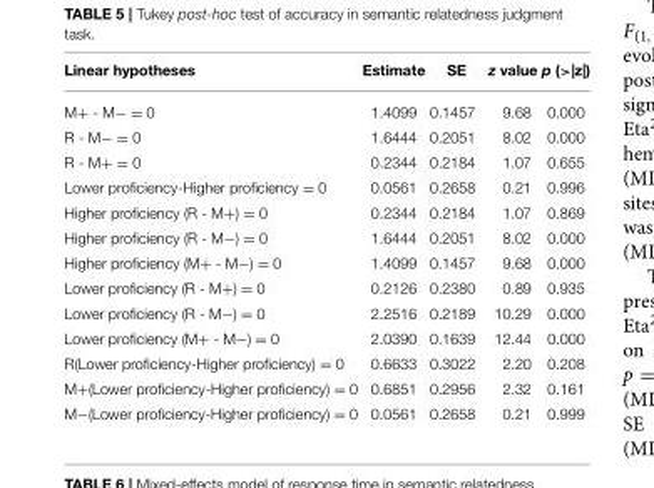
<table><thead><tr><td>Linear hypotheses</td><td>Estimate</td><td>SE</td><td>z value</td><td>p (&gt;|z|)</td></tr></thead><tbody><tr><td>M+ - M− = 0</td><td>1.4099</td><td>0.1457</td><td>9.68</td><td>0.000</td></tr><tr><td>R - M− = 0</td><td>1.6444</td><td>0.2051</td><td>8.02</td><td>0.000</td></tr><tr><td>R - M+ = 0</td><td>0.2344</td><td>0.2184</td><td>1.07</td><td>0.655</td></tr><tr><td>Lower proficiency-Higher proficiency = 0</td><td>0.0561</td><td>0.2658</td><td>0.21</td><td>0.996</td></tr><tr><td>Higher proficiency (R - M+) = 0</td><td>0.2344</td><td>0.2184</td><td>1.07</td><td>0.869</td></tr><tr><td>Higher proficiency (R - M−) = 0</td><td>1.6444</td><td>0.2051</td><td>8.02</td><td>0.000</td></tr><tr><td>Higher proficiency (M+ - M−) = 0</td><td>1.4099</td><td>0.1457</td><td>9.68</td><td>0.000</td></tr><tr><td>Lower proficiency (R - M+) = 0</td><td>0.2126</td><td>0.2380</td><td>0.89</td><td>0.935</td></tr><tr><td>Lower proficiency (R - M−) = 0</td><td>2.2516</td><td>0.2189</td><td>10.29</td><td>0.000</td></tr><tr><td>Lower proficiency (M+ - M−) = 0</td><td>2.0390</td><td>0.1639</td><td>12.44</td><td>0.000</td></tr><tr><td>R(Lower proficiency-Higher proficiency) = 0</td><td>0.6633</td><td>0.3022</td><td>2.20</td><td>0.208</td></tr><tr><td>M+(Lower proficiency-Higher proficiency) = 0</td><td>0.6851</td><td>0.2956</td><td>2.32</td><td>0.161</td></tr><tr><td>M−(Lower proficiency-Higher proficiency) = 0</td><td>0.0561</td><td>0.2658</td><td>0.21</td><td>0.999</td></tr></tbody></table>